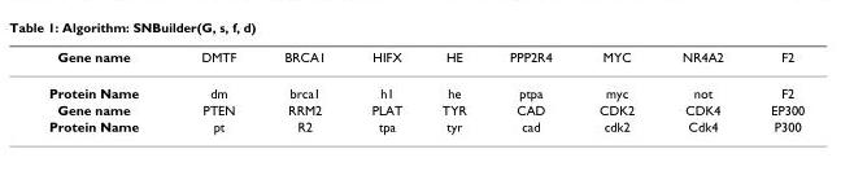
<table><thead><tr><td>Gene name</td><td>DMTF</td><td>BRCA1</td><td>HIFX</td><td>HE</td><td>PPP2R4</td><td>MYC</td><td>NR4A2</td><td>F2</td></tr></thead><tbody><tr><td>Protein Name</td><td>dm</td><td>brca1</td><td>h1</td><td>he</td><td>ptpa</td><td>myc</td><td>not</td><td>F2</td></tr><tr><td>Gene name</td><td>PTEN</td><td>RRM2</td><td>PLAT</td><td>TYR</td><td>CAD</td><td>CDK2</td><td>CDK4</td><td>EP300</td></tr><tr><td>Protein Name</td><td>pt</td><td>R2</td><td>tpa</td><td>tyr</td><td>cad</td><td>cdk2</td><td>Cdk4</td><td>P300</td></tr></tbody></table>